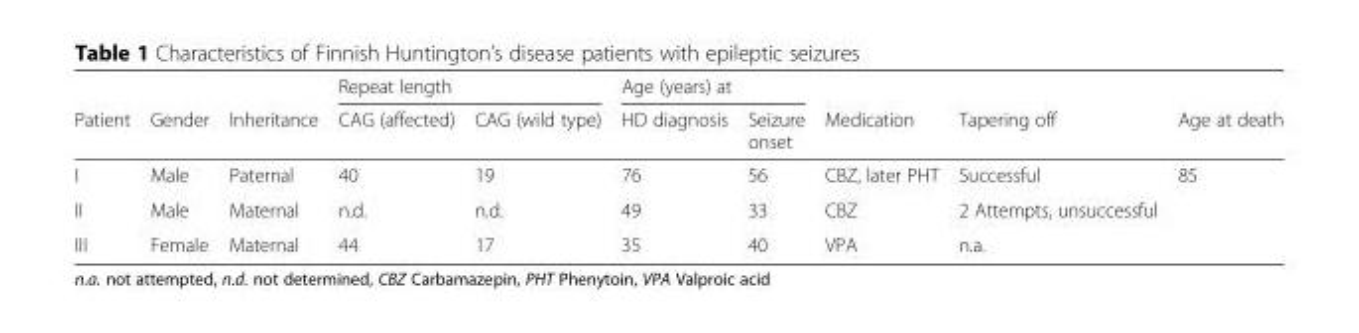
<table><thead><tr><td rowspan="2">Patient</td><td rowspan="2">Gender</td><td rowspan="2">Inheritance</td><td colspan="2">Repeat length</td><td colspan="2">Age (years) at</td><td rowspan="2">Medication</td><td rowspan="2">Tapering off</td><td rowspan="2">Age at death</td></tr><tr><td>CAG (affected)</td><td>CAG (wild type)</td><td>HD diagnosis</td><td>Seizure onset</td></tr></thead><tbody><tr><td>I</td><td>Male</td><td>Paternal</td><td>40</td><td>19</td><td>76</td><td>56</td><td>CBZ, later PHT</td><td>Successful</td><td>85</td></tr><tr><td>II</td><td>Male</td><td>Maternal</td><td>n.d.</td><td>n.d.</td><td>49</td><td>33</td><td>CBZ</td><td>2 Attempts, unsuccessful</td><td></td></tr><tr><td>III</td><td>Female</td><td>Maternal</td><td>44</td><td>17</td><td>35</td><td>40</td><td>VPA</td><td>n.a.</td><td></td></tr></tbody></table>